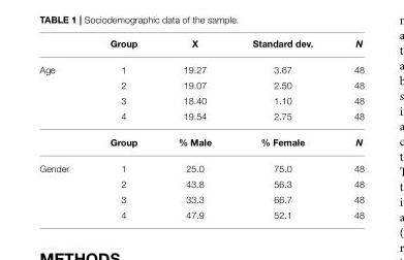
<table><thead><tr><td></td><td>Group</td><td>X</td><td>Standard dev.</td><td>N</td></tr></thead><tbody><tr><td rowspan="5">Age</td><td>1</td><td>19.27</td><td>3.67</td><td>48</td></tr><tr><td>2</td><td>19.07</td><td>2.50</td><td>48</td></tr><tr><td>3</td><td>18.40</td><td>1.10</td><td>48</td></tr><tr><td>4</td><td>19.54</td><td>2.75</td><td>48</td></tr><tr><td>Group</td><td>% Male</td><td>% Female</td><td>N</td></tr><tr><td rowspan="4">Gender</td><td>1</td><td>25.0</td><td>75.0</td><td>48</td></tr><tr><td>2</td><td>43.8</td><td>56.3</td><td>48</td></tr><tr><td>3</td><td>33.3</td><td>66.7</td><td>48</td></tr><tr><td>4</td><td>47.9</td><td>52.1</td><td>48</td></tr></tbody></table>